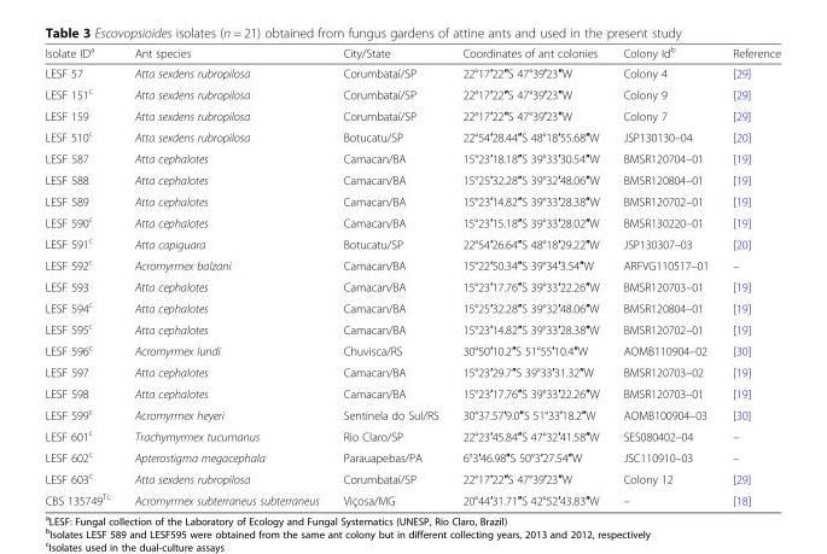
<table><thead><tr><td>Isolate ID<sup>a</sup></td><td>Ant species</td><td>City/State</td><td>Coordinates of ant colonies</td><td>Colony Id<sup>b</sup></td><td>Reference</td></tr></thead><tbody><tr><td>LESF 57</td><td>Atta sexdens rubropilosa</td><td>Corumbataí/SP</td><td>22°17′22″S 47°39′23″W</td><td>Colony 4</td><td>[29]</td></tr><tr><td>LESF 151<sup>c</sup></td><td>Atta sexdens rubropilosa</td><td>Corumbataí/SP</td><td>22°17′22″S 47°39′23″W</td><td>Colony 9</td><td>[29]</td></tr><tr><td>LESF 159</td><td>Atta sexdens rubropilosa</td><td>Corumbataí/SP</td><td>22°17′22″S 47°39′23″W</td><td>Colony 7</td><td>[29]</td></tr><tr><td>LESF 510<sup>c</sup></td><td>Atta sexdens rubropilosa</td><td>Botucatu/SP</td><td>22°54′28.44″S 48°18′55.68″W</td><td>JSP130130–04</td><td>[20]</td></tr><tr><td>LESF 587</td><td>Atta cephalotes</td><td>Camacan/BA</td><td>15°23′18.18″S 39°33′30.54″W</td><td>BMSR120704–01</td><td>[19]</td></tr><tr><td>LESF 588</td><td>Atta cephalotes</td><td>Camacan/BA</td><td>15°25′32.28″S 39°32′48.06″W</td><td>BMSR120804–01</td><td>[19]</td></tr><tr><td>LESF 589</td><td>Atta cephalotes</td><td>Camacan/BA</td><td>15°23′14.82″S 39°33′28.38″W</td><td>BMSR120702–01</td><td>[19]</td></tr><tr><td>LESF 590<sup>c</sup></td><td>Atta cephalotes</td><td>Camacan/BA</td><td>15°23′15.18″S 39°33′28.02″W</td><td>BMSR130220–01</td><td>[19]</td></tr><tr><td>LESF 591<sup>c</sup></td><td>Atta capiguara</td><td>Botucatu/SP</td><td>22°54′26.64″S 48°18′29.22″W</td><td>JSP130307–03</td><td>[20]</td></tr><tr><td>LESF 592<sup>c</sup></td><td>Acromyrmex balzani</td><td>Camacan/BA</td><td>15°22′50.34″S 39°34′3.54″W</td><td>ARFVG110517–01</td><td>–</td></tr><tr><td>LESF 593</td><td>Atta cephalotes</td><td>Camacan/BA</td><td>15°23′17.76″S 39°33′22.26″W</td><td>BMSR120703–01</td><td>[19]</td></tr><tr><td>LESF 594<sup>c</sup></td><td>Atta cephalotes</td><td>Camacan/BA</td><td>15°25′32.28″S 39°32′48.06″W</td><td>BMSR120804–01</td><td>[19]</td></tr><tr><td>LESF 595<sup>c</sup></td><td>Atta cephalotes</td><td>Camacan/BA</td><td>15°23′14.82″S 39°33′28.38″W</td><td>BMSR120702–01</td><td>[19]</td></tr><tr><td>LESF 596<sup>c</sup></td><td>Acromyrmex lundi</td><td>Chuvisca/RS</td><td>30°50′10.2″S 51°55′10.4″W</td><td>AOMB110904–02</td><td>[30]</td></tr><tr><td>LESF 597</td><td>Atta cephalotes</td><td>Camacan/BA</td><td>15°23′29.7″S 39°33′31.32″W</td><td>BMSR120703–02</td><td>[19]</td></tr><tr><td>LESF 598</td><td>Atta cephalotes</td><td>Camacan/BA</td><td>15°23′17.76″S 39°33′22.26″W</td><td>BMSR120703–01</td><td>[19]</td></tr><tr><td>LESF 599<sup>c</sup></td><td>Acromyrmex heyeri</td><td>Sentinela do Sul/RS</td><td>30°37.57′9.0″S 51°33′18.2″W</td><td>AOMB100904–03</td><td>[30]</td></tr><tr><td>LESF 601<sup>c</sup></td><td>Trachymyrmex tucumanus</td><td>Rio Claro/SP</td><td>22°23′45.84″S 47°32′41.58″W</td><td>SES080402–04</td><td>–</td></tr><tr><td>LESF 602<sup>c</sup></td><td>Apterostigma megacephala</td><td>Parauapebas/PA</td><td>6°3′46.98″S 50°3′27.54″W</td><td>JSC110910–03</td><td>–</td></tr><tr><td>LESF 603<sup>c</sup></td><td>Atta sexdens rubropilosa</td><td>Corumbataí/SP</td><td>22°17′22″S 47°39′23″W</td><td>Colony 12</td><td>[29]</td></tr><tr><td>CBS 135749<sup>Tc</sup></td><td>Acromyrmex subterraneus subterraneus</td><td>Viçosa/MG</td><td>20°44′31.71″S 42°52′43.83″W</td><td>–</td><td>[18]</td></tr></tbody></table>